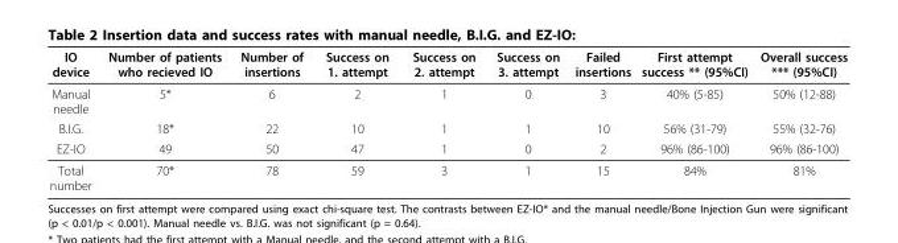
<table><thead><tr><td>IO device</td><td>Number of patients who recieved IO</td><td>Number of insertions</td><td>Success on 1. attempt</td><td>Success on 2. attempt</td><td>Success on 3. attempt</td><td>Failed insertions</td><td>First attempt success ** (95%CI)</td><td>Overall success *** (95%CI)</td></tr></thead><tbody><tr><td>Manual needle</td><td>5*</td><td>6</td><td>2</td><td>1</td><td>0</td><td>3</td><td>40% (5-85)</td><td>50% (12-88)</td></tr><tr><td>B.I.G.</td><td>18*</td><td>22</td><td>10</td><td>1</td><td>1</td><td>10</td><td>56% (31-79)</td><td>55% (32-76)</td></tr><tr><td>EZ-IO</td><td>49</td><td>50</td><td>47</td><td>1</td><td>0</td><td>2</td><td>96% (86-100)</td><td>96% (86-100)</td></tr><tr><td>Total number</td><td>70*</td><td>78</td><td>59</td><td>3</td><td>1</td><td>15</td><td>84%</td><td>81%</td></tr></tbody></table>